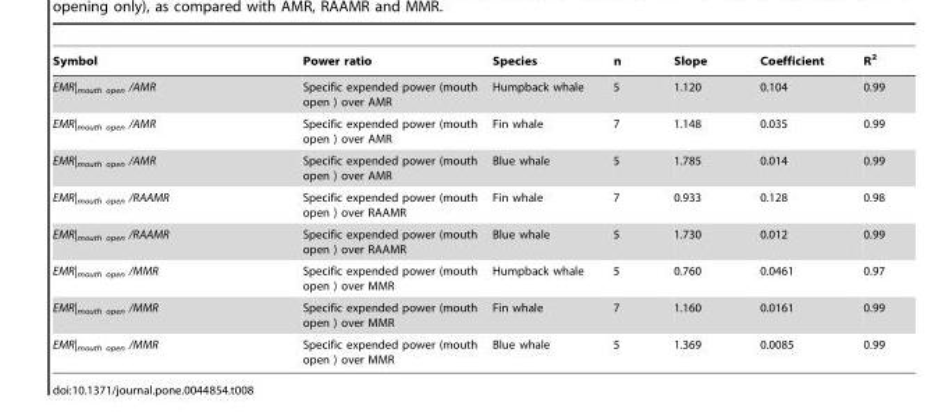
<table><thead><tr><td>Symbol</td><td>Power ratio</td><td>Species</td><td>n</td><td>Slope</td><td>Coefficient</td><td>R<sup>2</sup></td></tr></thead><tbody><tr><td>EMR|<sub>mouth open</sub> /AMR</td><td>Specific expended power (mouth open ) over AMR</td><td>Humpback whale</td><td>5</td><td>1.120</td><td>0.104</td><td>0.99</td></tr><tr><td>EMR|<sub>mouth open</sub> /AMR</td><td>Specific expended power (mouth open ) over AMR</td><td>Fin whale</td><td>7</td><td>1.148</td><td>0.035</td><td>0.99</td></tr><tr><td>EMR|<sub>mouth open</sub> /AMR</td><td>Specific expended power (mouth open ) over AMR</td><td>Blue whale</td><td>5</td><td>1.785</td><td>0.014</td><td>0.99</td></tr><tr><td>EMR|<sub>mouth open</sub> /RAAMR</td><td>Specific expended power (mouth open ) over RAAMR</td><td>Fin whale</td><td>7</td><td>0.933</td><td>0.128</td><td>0.98</td></tr><tr><td>EMR|<sub>mouth open</sub> /RAAMR</td><td>Specific expended power (mouth open ) over RAAMR</td><td>Blue whale</td><td>5</td><td>1.730</td><td>0.012</td><td>0.99</td></tr><tr><td>EMR|<sub>mouth open</sub> /MMR</td><td>Specific expended power (mouth open ) over MMR</td><td>Humpback whale</td><td>5</td><td>0.760</td><td>0.0461</td><td>0.97</td></tr><tr><td>EMR|<sub>mouth open</sub> /MMR</td><td>Specific expended power (mouth open ) over MMR</td><td>Fin whale</td><td>7</td><td>1.160</td><td>0.0161</td><td>0.99</td></tr><tr><td>EMR|<sub>mouth open</sub> /MMR</td><td>Specific expended power (mouth open ) over MMR</td><td>Blue whale</td><td>5</td><td>1.369</td><td>0.0085</td><td>0.99</td></tr></tbody></table>